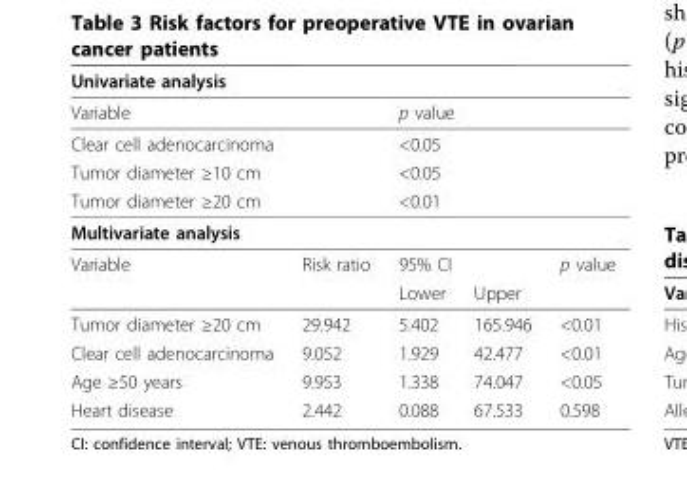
<table><thead><tr><td colspan="2">Univariate analysis</td><td></td><td></td><td></td></tr></thead><tbody><tr><td colspan="2">Variable</td><td colspan="3">p value</td></tr><tr><td colspan="2">Clear cell adenocarcinoma</td><td colspan="3">&lt;0.05</td></tr><tr><td colspan="2">Tumor diameter ≥10 cm</td><td colspan="3">&lt;0.05</td></tr><tr><td colspan="2">Tumor diameter ≥20 cm</td><td colspan="3">&lt;0.01</td></tr><tr><td colspan="5">Multivariate analysis</td></tr><tr><td rowspan="2">Variable</td><td>Risk ratio</td><td colspan="2">95% CI</td><td>p value</td></tr><tr><td></td><td>Lower</td><td>Upper</td><td></td></tr><tr><td>Tumor diameter ≥20 cm</td><td>29.942</td><td>5.402</td><td>165.946</td><td>&lt;0.01</td></tr><tr><td>Clear cell adenocarcinoma</td><td>9.052</td><td>1.929</td><td>42.477</td><td>&lt;0.01</td></tr><tr><td>Age ≥50 years</td><td>9.953</td><td>1.338</td><td>74.047</td><td>&lt;0.05</td></tr><tr><td>Heart disease</td><td>2.442</td><td>0.088</td><td>67.533</td><td>0.598</td></tr></tbody></table>